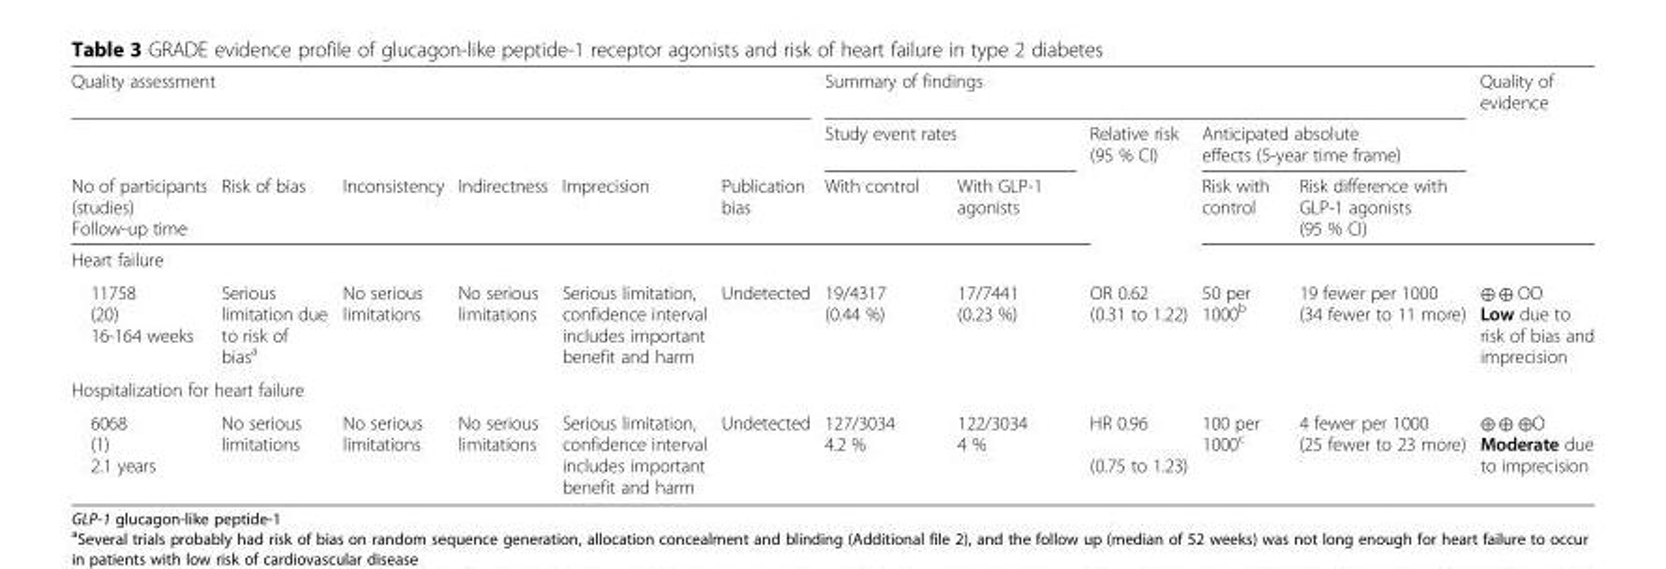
<table><thead><tr><td colspan="6">Quality assessment</td><td colspan="5">Summary of findings</td><td rowspan="3">Quality of evidence</td></tr><tr><td rowspan="2">No of participants (studies) Follow-up time</td><td rowspan="2">Risk of bias</td><td rowspan="2">Inconsistency</td><td rowspan="2">Indirectness</td><td rowspan="2">Imprecision</td><td rowspan="2">Publication bias</td><td colspan="2">Study event rates</td><td rowspan="2">Relative risk (95 % CI)</td><td colspan="2">Anticipated absolute effects (5-year time frame)</td></tr><tr><td>With control</td><td>With GLP-1 agonists</td><td>Risk with control</td><td>Risk difference with GLP-1 agonists (95 % CI)</td></tr></thead><tbody><tr><td colspan="12">Heart failure</td></tr><tr><td>11758 (20) 16-164 weeks</td><td>Serious limitation due to risk of bias<sup>a</sup></td><td>No serious limitations</td><td>No serious limitations</td><td>Serious limitation, confidence interval includes important benefit and harm</td><td>Undetected</td><td>19/4317 (0.44 %)</td><td>17/7441 (0.23 %)</td><td>OR 0.62 (0.31 to 1.22)</td><td>50 per 1000<sup>b</sup></td><td>19 fewer per 1000 (34 fewer to 11 more)</td><td>⊕ ⊕ ΟΟ Low due to risk of bias and imprecision</td></tr><tr><td colspan="12">Hospitalization for heart failure</td></tr><tr><td>6068 (1) 2.1 years</td><td>No serious limitations</td><td>No serious limitations</td><td>No serious limitations</td><td>Serious limitation, confidence interval includes important benefit and harm</td><td>Undetected</td><td>127/3034 4.2 %</td><td>122/3034 4 %</td><td>HR 0.96 (0.75 to 1.23)</td><td>100 per 1000<sup>c</sup></td><td>4 fewer per 1000 (25 fewer to 23 more)</td><td>⊕ ⊕ ⊕Ο Moderate due to imprecision</td></tr></tbody></table>